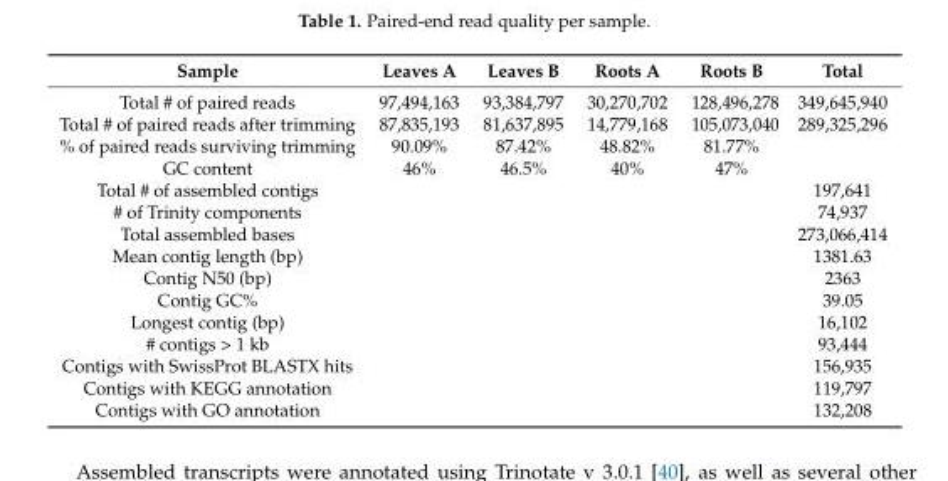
<table><thead><tr><td>Sample</td><td>Leaves A</td><td>Leaves B</td><td>Roots A</td><td>Roots B</td><td>Total</td></tr></thead><tbody><tr><td>Total # of paired reads</td><td>97,494,163</td><td>93,384,797</td><td>30,270,702</td><td>128,496,278</td><td>349,645,940</td></tr><tr><td>Total # of paired reads after trimming</td><td>87,835,193</td><td>81,637,895</td><td>14,779,168</td><td>105,073,040</td><td>289,325,296</td></tr><tr><td>% of paired reads surviving trimming</td><td>90.09%</td><td>87.42%</td><td>48.82%</td><td>81.77%</td><td></td></tr><tr><td>GC content</td><td>46%</td><td>46.5%</td><td>40%</td><td>47%</td><td></td></tr><tr><td>Total # of assembled contigs</td><td></td><td></td><td></td><td></td><td>197,641</td></tr><tr><td># of Trinity components</td><td></td><td></td><td></td><td></td><td>74,937</td></tr><tr><td>Total assembled bases</td><td></td><td></td><td></td><td></td><td>273,066,414</td></tr><tr><td>Mean contig length (bp)</td><td></td><td></td><td></td><td></td><td>1381.63</td></tr><tr><td>Contig N50 (bp)</td><td></td><td></td><td></td><td></td><td>2363</td></tr><tr><td>Contig GC%</td><td></td><td></td><td></td><td></td><td>39.05</td></tr><tr><td>Longest contig (bp)</td><td></td><td></td><td></td><td></td><td>16,102</td></tr><tr><td># contigs &gt; 1 kb</td><td></td><td></td><td></td><td></td><td>93,444</td></tr><tr><td>Contigs with SwissProt BLASTX hits</td><td></td><td></td><td></td><td></td><td>156,935</td></tr><tr><td>Contigs with KEGG annotation</td><td></td><td></td><td></td><td></td><td>119,797</td></tr><tr><td>Contigs with GO annotation</td><td></td><td></td><td></td><td></td><td>132,208</td></tr></tbody></table>